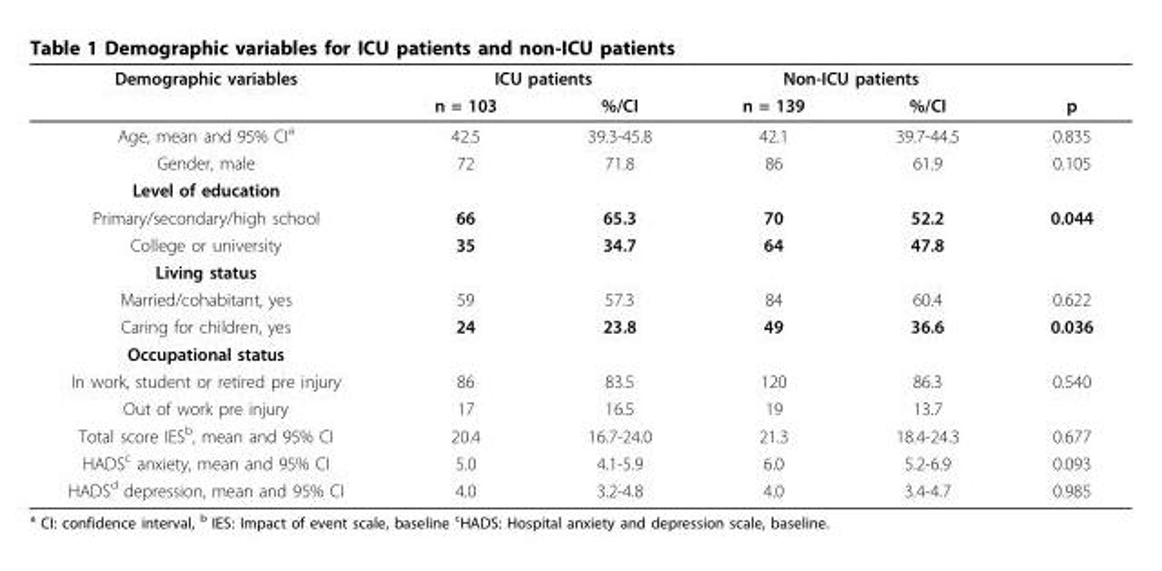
<table><thead><tr><td rowspan="2">Demographic variables</td><td colspan="2">ICU patients</td><td colspan="2">Non-ICU patients</td><td rowspan="2">p</td></tr><tr><td>n = 103</td><td>%/CI</td><td>n = 139</td><td>%/CI</td></tr></thead><tbody><tr><td>Age, mean and 95% CI<sup>a</sup></td><td>42.5</td><td>39.3-45.8</td><td>42.1</td><td>39.7-44.5</td><td>0.835</td></tr><tr><td>Gender, male</td><td>72</td><td>71.8</td><td>86</td><td>61.9</td><td>0.105</td></tr><tr><td colspan="6">Level of education</td></tr><tr><td>Primary/secondary/high school</td><td>66</td><td>65.3</td><td>70</td><td>52.2</td><td>0.044</td></tr><tr><td>College or university</td><td>35</td><td>34.7</td><td>64</td><td>47.8</td><td></td></tr><tr><td colspan="6">Living status</td></tr><tr><td>Married/cohabitant, yes</td><td>59</td><td>57.3</td><td>84</td><td>60.4</td><td>0.622</td></tr><tr><td>Caring for children, yes</td><td>24</td><td>23.8</td><td>49</td><td>36.6</td><td>0.036</td></tr><tr><td colspan="6">Occupational status</td></tr><tr><td>In work, student or retired pre injury</td><td>86</td><td>83.5</td><td>120</td><td>86.3</td><td>0.540</td></tr><tr><td>Out of work pre injury</td><td>17</td><td>16.5</td><td>19</td><td>13.7</td><td></td></tr><tr><td>Total score IES<sup>b</sup>, mean and 95% CI</td><td>20.4</td><td>16.7-24.0</td><td>21.3</td><td>18.4-24.3</td><td>0.677</td></tr><tr><td>HADS<sup>c</sup> anxiety, mean and 95% CI</td><td>5.0</td><td>4.1-5.9</td><td>6.0</td><td>5.2-6.9</td><td>0.093</td></tr><tr><td>HADS<sup>d</sup> depression, mean and 95% CI</td><td>4.0</td><td>3.2-4.8</td><td>4.0</td><td>3.4-4.7</td><td>0.985</td></tr></tbody></table>